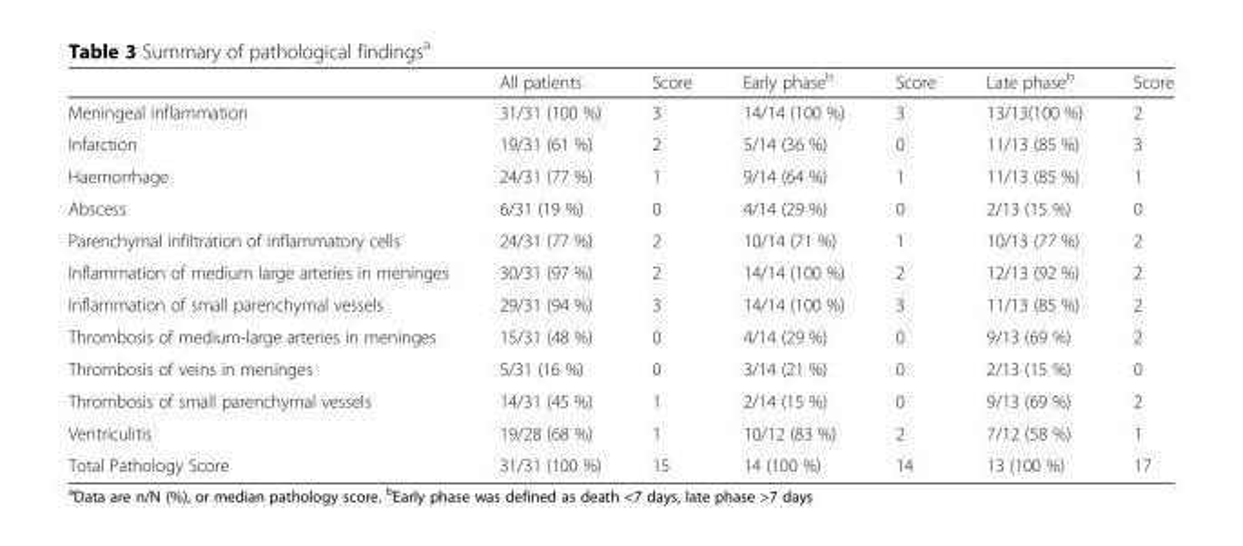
<table><thead><tr><td></td><td>All patients</td><td>Score</td><td>Early phase<sup>b</sup></td><td>Score</td><td>Late phase<sup>b</sup></td><td>Score</td></tr></thead><tbody><tr><td>Meningeal inflammation</td><td>31/31 (100 %)</td><td>3</td><td>14/14 (100 %)</td><td>3</td><td>13/13(100 %)</td><td>2</td></tr><tr><td>Infarction</td><td>19/31 (61 %)</td><td>2</td><td>5/14 (36 %)</td><td>0</td><td>11/13 (85 %)</td><td>3</td></tr><tr><td>Haemorrhage</td><td>24/31 (77 %)</td><td>1</td><td>9/14 (64 %)</td><td>1</td><td>11/13 (85 %)</td><td>1</td></tr><tr><td>Abscess</td><td>6/31 (19 %)</td><td>0</td><td>4/14 (29 %)</td><td>0</td><td>2/13 (15 %)</td><td>0</td></tr><tr><td>Parenchymal infiltration of inflammatory cells</td><td>24/31 (77 %)</td><td>2</td><td>10/14 (71 %)</td><td>1</td><td>10/13 (77 %)</td><td>2</td></tr><tr><td>Inflammation of medium large arteries in meninges</td><td>30/31 (97 %)</td><td>2</td><td>14/14 (100 %)</td><td>2</td><td>12/13 (92 %)</td><td>2</td></tr><tr><td>Inflammation of small parenchymal vessels</td><td>29/31 (94 %)</td><td>3</td><td>14/14 (100 %)</td><td>3</td><td>11/13 (85 %)</td><td>2</td></tr><tr><td>Thrombosis of medium-large arteries in meninges</td><td>15/31 (48 %)</td><td>0</td><td>4/14 (29 %)</td><td>0</td><td>9/13 (69 %)</td><td>2</td></tr><tr><td>Thrombosis of veins in meninges</td><td>5/31 (16 %)</td><td>0</td><td>3/14 (21 %)</td><td>0</td><td>2/13 (15 %)</td><td>0</td></tr><tr><td>Thrombosis of small parenchymal vessels</td><td>14/31 (45 %)</td><td>1</td><td>2/14 (15 %)</td><td>0</td><td>9/13 (69 %)</td><td>2</td></tr><tr><td>Ventriculitis</td><td>19/28 (68 %)</td><td>1</td><td>10/12 (83 %)</td><td>2</td><td>7/12 (58 %)</td><td>1</td></tr><tr><td>Total Pathology Score</td><td>31/31 (100 %)</td><td>15</td><td>14 (100 %)</td><td>14</td><td>13 (100 %)</td><td>17</td></tr></tbody></table>